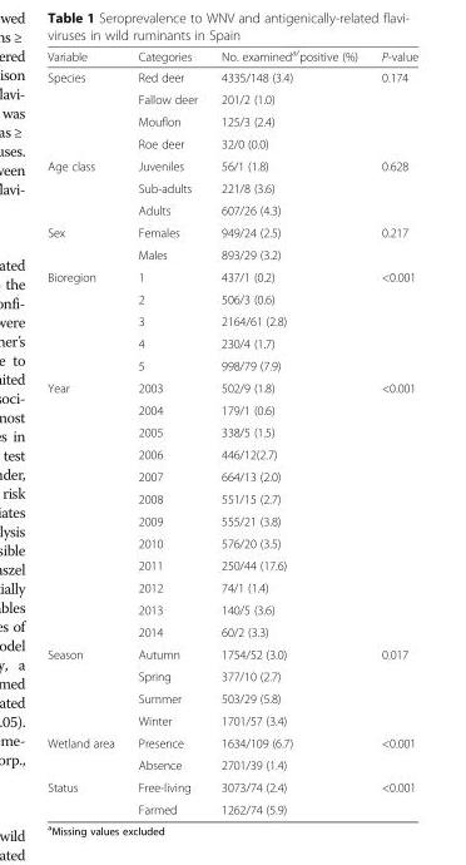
<table><thead><tr><td>Variable</td><td>Categories</td><td>No. examined<sup>a/</sup>positive (%)</td><td>P-value</td></tr></thead><tbody><tr><td rowspan="4">Species</td><td>Red deer</td><td>4335/148 (3.4)</td><td rowspan="4">0.174</td></tr><tr><td>Fallow deer</td><td>201/2 (1.0)</td></tr><tr><td>Mouflon</td><td>125/3 (2.4)</td></tr><tr><td>Roe deer</td><td>32/0 (0.0)</td></tr><tr><td rowspan="3">Age class</td><td>Juveniles</td><td>56/1 (1.8)</td><td rowspan="3">0.628</td></tr><tr><td>Sub-adults</td><td>221/8 (3.6)</td></tr><tr><td>Adults</td><td>607/26 (4.3)</td></tr><tr><td rowspan="2">Sex</td><td>Females</td><td>949/24 (2.5)</td><td rowspan="2">0.217</td></tr><tr><td>Males</td><td>893/29 (3.2)</td></tr><tr><td rowspan="5">Bioregion</td><td>1</td><td>437/1 (0.2)</td><td rowspan="5">&lt;0.001</td></tr><tr><td>2</td><td>506/3 (0.6)</td></tr><tr><td>3</td><td>2164/61 (2.8)</td></tr><tr><td>4</td><td>230/4 (1.7)</td></tr><tr><td>5</td><td>998/79 (7.9)</td></tr><tr><td rowspan="12">Year</td><td>2003</td><td>502/9 (1.8)</td><td rowspan="12">&lt;0.001</td></tr><tr><td>2004</td><td>179/1 (0.6)</td></tr><tr><td>2005</td><td>338/5 (1.5)</td></tr><tr><td>2006</td><td>446/12(2.7)</td></tr><tr><td>2007</td><td>664/13 (2.0)</td></tr><tr><td>2008</td><td>551/15 (2.7)</td></tr><tr><td>2009</td><td>555/21 (3.8)</td></tr><tr><td>2010</td><td>576/20 (3.5)</td></tr><tr><td>2011</td><td>250/44 (17.6)</td></tr><tr><td>2012</td><td>74/1 (1.4)</td></tr><tr><td>2013</td><td>140/5 (3.6)</td></tr><tr><td>2014</td><td>60/2 (3.3)</td></tr><tr><td rowspan="4">Season</td><td>Autumn</td><td>1754/52 (3.0)</td><td rowspan="4">0.017</td></tr><tr><td>Spring</td><td>377/10 (2.7)</td></tr><tr><td>Summer</td><td>503/29 (5.8)</td></tr><tr><td>Winter</td><td>1701/57 (3.4)</td></tr><tr><td rowspan="2">Wetland area</td><td>Presence</td><td>1634/109 (6.7)</td><td rowspan="2">&lt;0.001</td></tr><tr><td>Absence</td><td>2701/39 (1.4)</td></tr><tr><td rowspan="2">Status</td><td>Free-living</td><td>3073/74 (2.4)</td><td rowspan="2">&lt;0.001</td></tr><tr><td>Farmed</td><td>1262/74 (5.9)</td></tr></tbody></table>